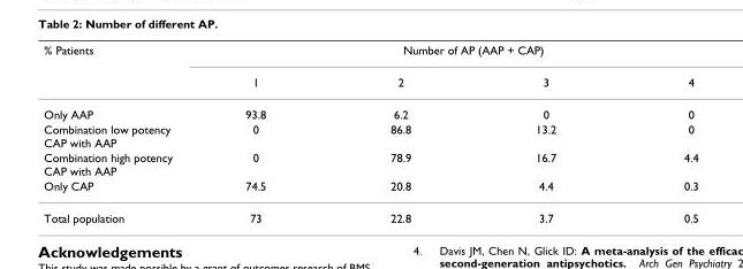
<table><thead><tr><td rowspan="2">% Patients</td><td colspan="4">Number of AP (AAP + CAP)</td></tr><tr><td>1</td><td>2</td><td>3</td><td>4</td></tr></thead><tbody><tr><td>Only AAP</td><td>93.8</td><td>6.2</td><td>0</td><td>0</td></tr><tr><td>Combination low potency CAP with AAP</td><td>0</td><td>86.8</td><td>13.2</td><td>0</td></tr><tr><td>Combination high potency CAP with AAP</td><td>0</td><td>78.9</td><td>16.7</td><td>4.4</td></tr><tr><td>Only CAP</td><td>74.5</td><td>20.8</td><td>4.4</td><td>0.3</td></tr><tr><td>Total population</td><td>73</td><td>22.8</td><td>3.7</td><td>0.5</td></tr></tbody></table>